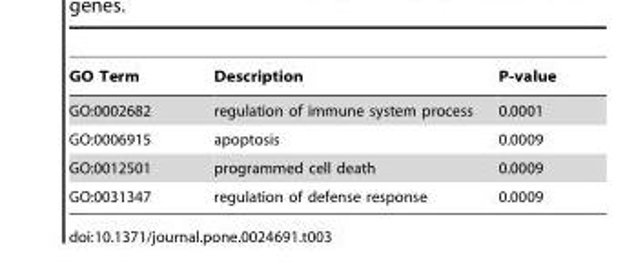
<table><thead><tr><td>GO Term</td><td>Description</td><td>P-value</td></tr></thead><tbody><tr><td>GO:0002682</td><td>regulation of immune system process</td><td>0.0001</td></tr><tr><td>GO:0006915</td><td>apoptosis</td><td>0.0009</td></tr><tr><td>GO:0012501</td><td>programmed cell death</td><td>0.0009</td></tr><tr><td>GO:0031347</td><td>regulation of defense response</td><td>0.0009</td></tr></tbody></table>